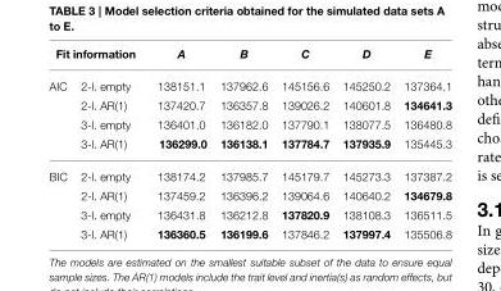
<table><thead><tr><td colspan="2">Fit information</td><td rowspan="2">A 138151.1</td><td rowspan="2">B 137962.6</td><td rowspan="2">C 145156.6</td><td rowspan="2">D 145250.2</td><td rowspan="2">E 137364.1</td></tr><tr><td>AIC</td><td>2-l. empty</td></tr></thead><tbody><tr><td></td><td>2-l. AR(1)</td><td>137420.7</td><td>136357.8</td><td>139026.2</td><td>140601.8</td><td>134641.3</td></tr><tr><td></td><td>3-l. empty</td><td>136401.0</td><td>136182.0</td><td>137790.1</td><td>138077.5</td><td>136480.8</td></tr><tr><td></td><td>3-l. AR(1)</td><td>136299.0</td><td>136138.1</td><td>137784.7</td><td>137935.9</td><td>135445.3</td></tr><tr><td rowspan="4">BIC</td><td>2-l. empty</td><td>138174.2</td><td>137985.7</td><td>145179.7</td><td>145273.3</td><td>137387.2</td></tr><tr><td>2-l. AR(1)</td><td>137459.2</td><td>136396.2</td><td>139064.6</td><td>140640.2</td><td>134679.8</td></tr><tr><td>3-l. empty</td><td>136431.8</td><td>136212.8</td><td>137820.9</td><td>138108.3</td><td>136511.5</td></tr><tr><td>3-l. AR(1)</td><td>136360.5</td><td>136199.6</td><td>137846.2</td><td>137997.4</td><td>135506.8</td></tr></tbody></table>